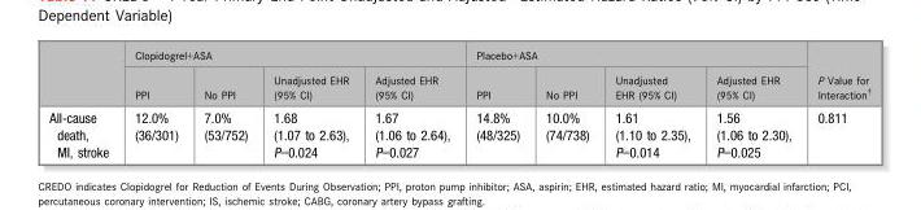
<table><thead><tr><td rowspan="2"></td><td colspan="4">Clopidogrel+ASA</td><td colspan="4">Placebo+ASA</td><td rowspan="2">P Value for Interaction†</td></tr><tr><td>PPI</td><td>No PPI</td><td>Unadjusted EHR (95% CI)</td><td>Adjusted EHR (95% CI)</td><td>PPI</td><td>No PPI</td><td>Unadjusted EHR (95% CI)</td><td>Adjusted EHR (95% CI)</td></tr></thead><tbody><tr><td>All-cause death, MI, stroke</td><td>12.0% (36/301)</td><td>7.0% (53/752)</td><td>1.68 (1.07 to 2.63), P=0.024</td><td>1.67 (1.06 to 2.64), P=0.027</td><td>14.8% (48/325)</td><td>10.0% (74/738)</td><td>1.61 (1.10 to 2.35), P=0.014</td><td>1.56 (1.06 to 2.30), P=0.025</td><td>0.811</td></tr></tbody></table>